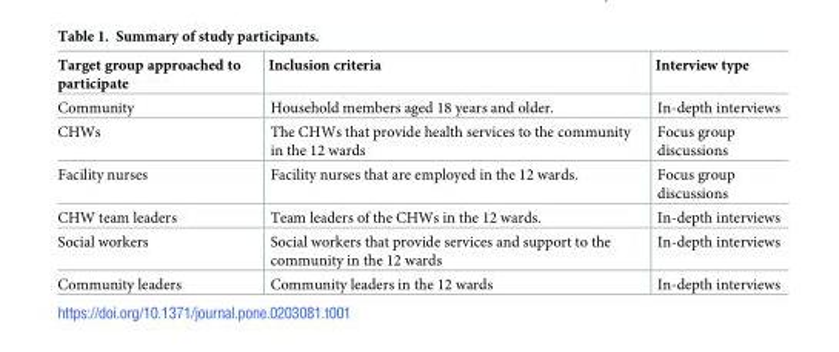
<table><thead><tr><td>Target group approached to participate</td><td>Inclusion criteria</td><td>Interview type</td></tr></thead><tbody><tr><td>Community</td><td>Household members aged 18 years and older.</td><td>In-depth interviews</td></tr><tr><td>CHWs</td><td>The CHWs that provide health services to the community in the 12 wards</td><td>Focus group discussions</td></tr><tr><td>Facility nurses</td><td>Facility nurses that are employed in the 12 wards.</td><td>Focus group discussions</td></tr><tr><td>CHW team leaders</td><td>Team leaders of the CHWs in the 12 wards.</td><td>In-depth interviews</td></tr><tr><td>Social workers</td><td>Social workers that provide services and support to the community in the 12 wards</td><td>In-depth interviews</td></tr><tr><td>Community leaders</td><td>Community leaders in the 12 wards</td><td>In-depth interviews</td></tr></tbody></table>